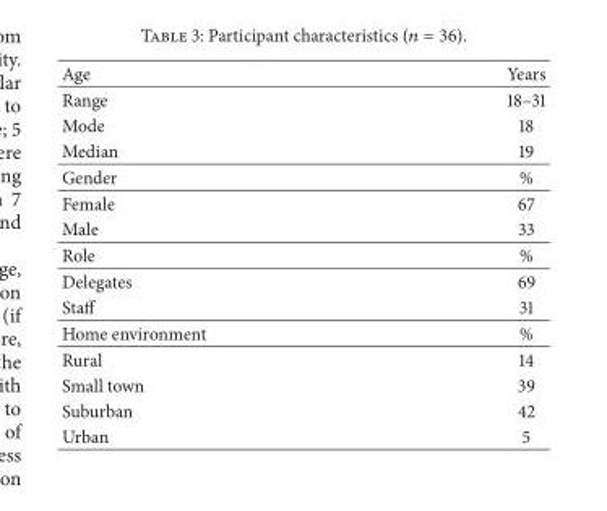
<table><thead><tr><td>Age</td><td>Years</td></tr></thead><tbody><tr><td>Range</td><td>18–31</td></tr><tr><td>Mode</td><td>18</td></tr><tr><td>Median</td><td>19</td></tr><tr><td>Gender</td><td>%</td></tr><tr><td>Female</td><td>67</td></tr><tr><td>Male</td><td>33</td></tr><tr><td>Role</td><td>%</td></tr><tr><td>Delegates</td><td>69</td></tr><tr><td>Staff</td><td>31</td></tr><tr><td>Home environment</td><td>%</td></tr><tr><td>Rural</td><td>14</td></tr><tr><td>Small town</td><td>39</td></tr><tr><td>Suburban</td><td>42</td></tr><tr><td>Urban</td><td>5</td></tr></tbody></table>